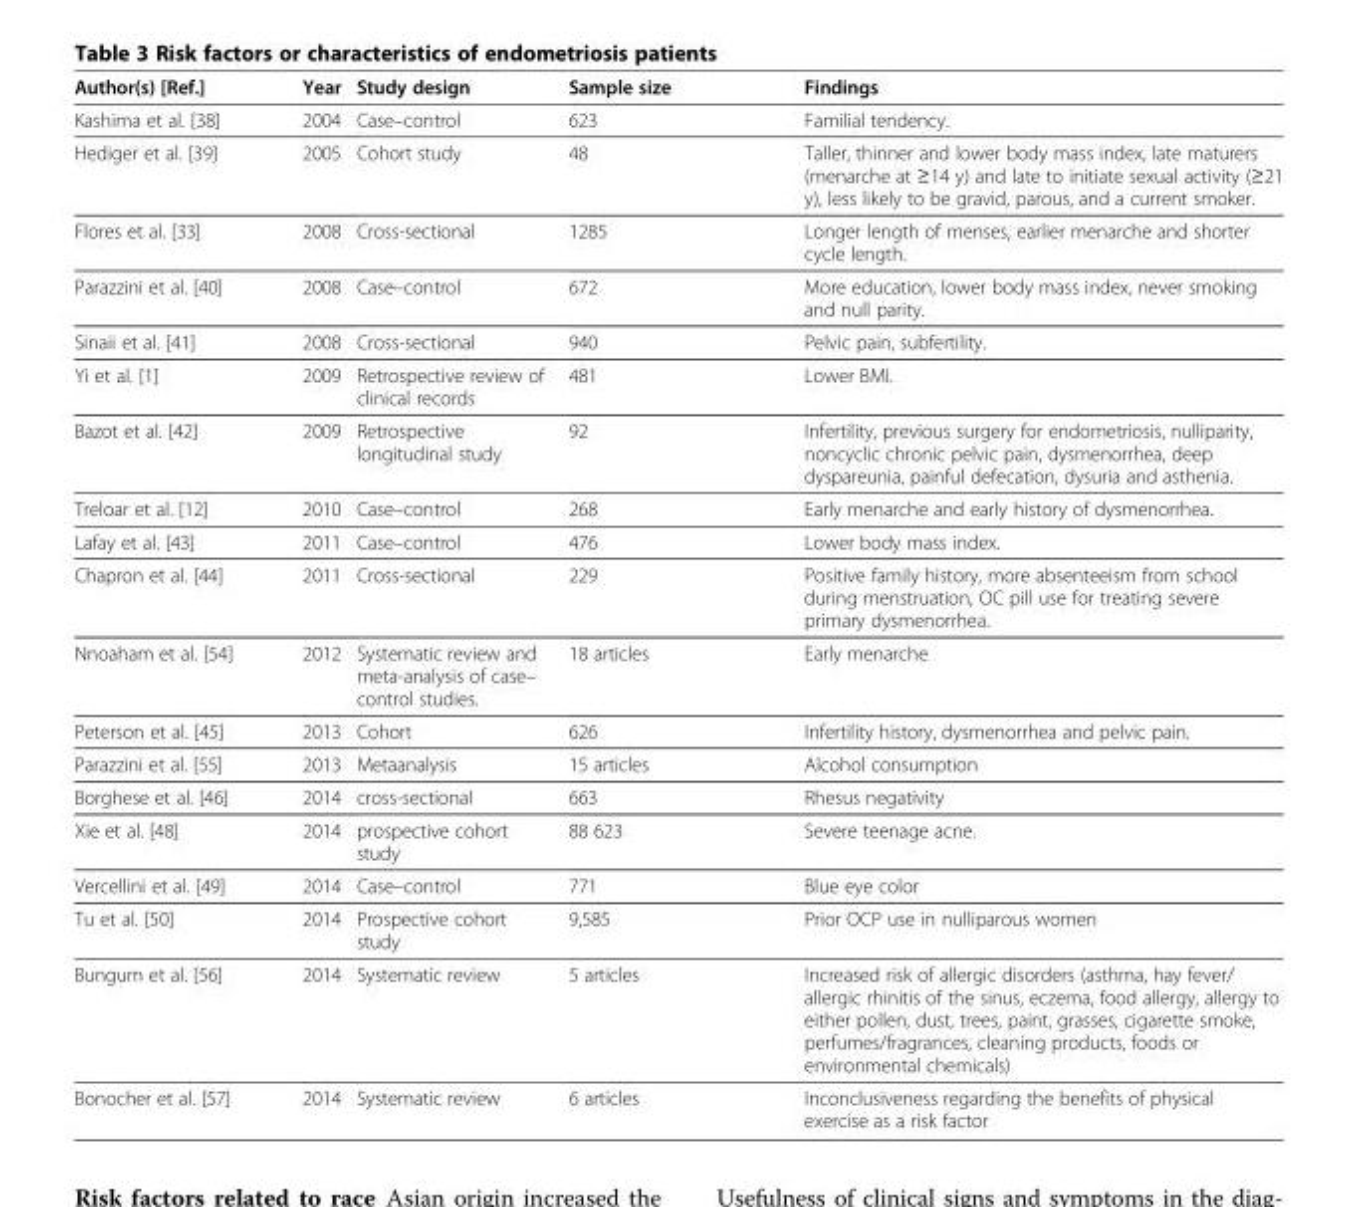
<table><thead><tr><td>Author(s) [Ref.]</td><td>Year</td><td>Study design</td><td>Sample size</td><td>Findings</td></tr></thead><tbody><tr><td>Kashima et al. [38]</td><td>2004</td><td>Case–control</td><td>623</td><td>Familial tendency.</td></tr><tr><td>Hediger et al. [39]</td><td>2005</td><td>Cohort study</td><td>48</td><td>Taller, thinner and lower body mass index, late maturers (menarche at ≥14 y) and late to initiate sexual activity (≥21 y), less likely to be gravid, parous, and a current smoker.</td></tr><tr><td>Flores et al. [33]</td><td>2008</td><td>Cross-sectional</td><td>1285</td><td>Longer length of menses, earlier menarche and shorter cycle length.</td></tr><tr><td>Parazzini et al. [40]</td><td>2008</td><td>Case–control</td><td>672</td><td>More education, lower body mass index, never smoking and null parity.</td></tr><tr><td>Sinaii et al. [41]</td><td>2008</td><td>Cross-sectional</td><td>940</td><td>Pelvic pain, subfertility.</td></tr><tr><td>Yi et al. [1]</td><td>2009</td><td>Retrospective review of clinical records</td><td>481</td><td>Lower BMI.</td></tr><tr><td>Bazot et al. [42]</td><td>2009</td><td>Retrospective longitudinal study</td><td>92</td><td>Infertility, previous surgery for endometriosis, nulliparity, noncyclic chronic pelvic pain, dysmenorrhea, deep dyspareunia, painful defecation, dysuria and asthenia.</td></tr><tr><td>Treloar et al. [12]</td><td>2010</td><td>Case–control</td><td>268</td><td>Early menarche and early history of dysmenorrhea.</td></tr><tr><td>Lafay et al. [43]</td><td>2011</td><td>Case–control</td><td>476</td><td>Lower body mass index.</td></tr><tr><td>Chapron et al. [44]</td><td>2011</td><td>Cross-sectional</td><td>229</td><td>Positive family history, more absenteeism from school during menstruation, OC pill use for treating severe primary dysmenorrhea.</td></tr><tr><td>Nnoaham et al. [54]</td><td>2012</td><td>Systematic review and meta-analysis of case– control studies.</td><td>18 articles</td><td>Early menarche</td></tr><tr><td>Peterson et al. [45]</td><td>2013</td><td>Cohort</td><td>626</td><td>Infertility history, dysmenorrhea and pelvic pain.</td></tr><tr><td>Parazzini et al. [55]</td><td>2013</td><td>Metaanalysis</td><td>15 articles</td><td>Alcohol consumption</td></tr><tr><td>Borghese et al. [46]</td><td>2014</td><td>cross-sectional</td><td>663</td><td>Rhesus negativity</td></tr><tr><td>Xie et al. [48]</td><td>2014</td><td>prospective cohort study</td><td>88 623</td><td>Severe teenage acne.</td></tr><tr><td>Vercellini et al. [49]</td><td>2014</td><td>Case–control</td><td>771</td><td>Blue eye color</td></tr><tr><td>Tu et al. [50]</td><td>2014</td><td>Prospective cohort study</td><td>9,585</td><td>Prior OCP use in nulliparous women</td></tr><tr><td>Bungum et al. [56]</td><td>2014</td><td>Systematic review</td><td>5 articles</td><td>Increased risk of allergic disorders (asthma, hay fever/ allergic rhinitis of the sinus, eczema, food allergy, allergy to either pollen, dust, trees, paint, grasses, cigarette smoke, perfumes/fragrances, cleaning products, foods or environmental chemicals)</td></tr><tr><td>Bonocher et al. [57]</td><td>2014</td><td>Systematic review</td><td>6 articles</td><td>Inconclusiveness regarding the benefits of physical exercise as a risk factor</td></tr></tbody></table>